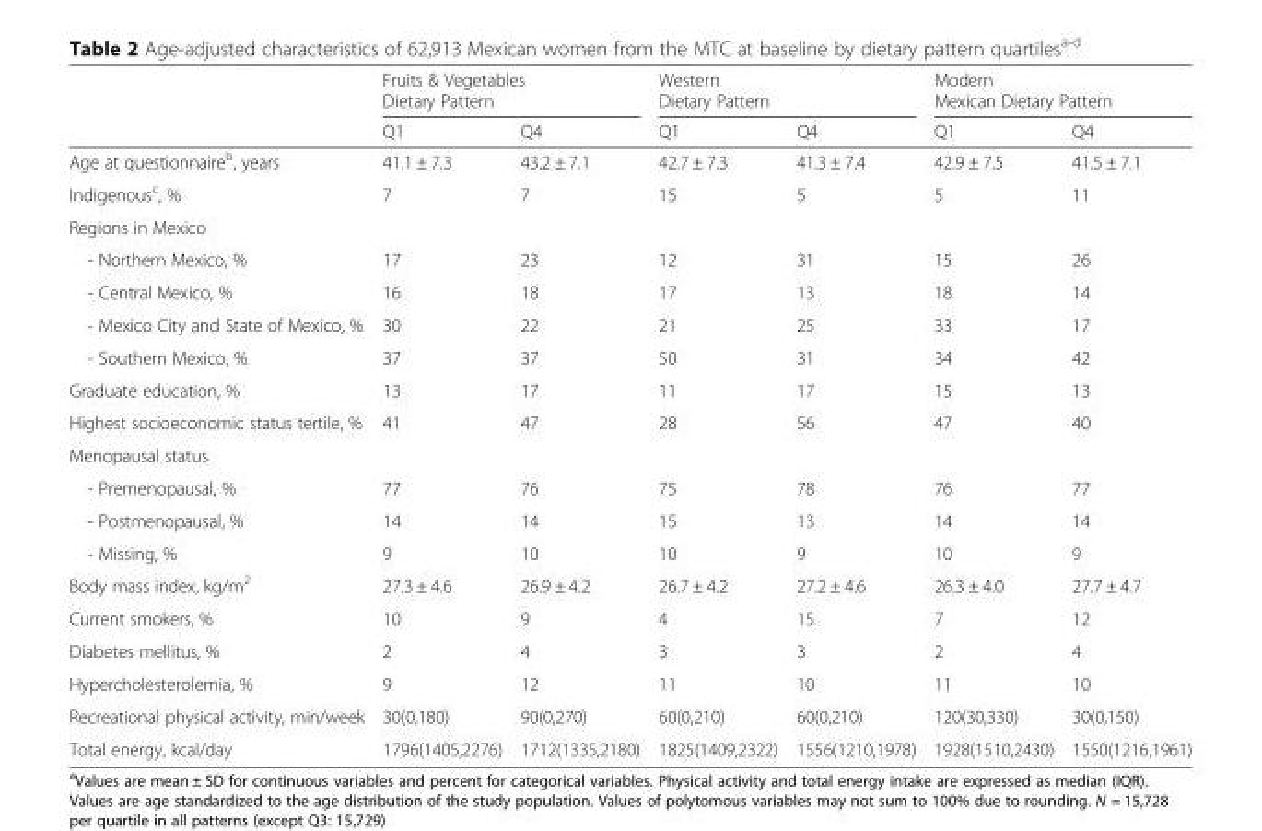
<table><thead><tr><td rowspan="2"></td><td colspan="2">Fruits &amp; Vegetables Dietary Pattern</td><td colspan="2">Western Dietary Pattern</td><td colspan="2">Modern Mexican Dietary Pattern</td></tr><tr><td>Q1</td><td>Q4</td><td>Q1</td><td>Q4</td><td>Q1</td><td>Q4</td></tr></thead><tbody><tr><td>Age at questionnaire<sup>b</sup>, years</td><td>41.1 ± 7.3</td><td>43.2 ± 7.1</td><td>42.7 ± 7.3</td><td>41.3 ± 7.4</td><td>42.9 ± 7.5</td><td>41.5 ± 7.1</td></tr><tr><td>Indigenous<sup>c</sup>, %</td><td>7</td><td>7</td><td>15</td><td>5</td><td>5</td><td>11</td></tr><tr><td colspan="7">Regions in Mexico</td></tr><tr><td>- Northern Mexico, %</td><td>17</td><td>23</td><td>12</td><td>31</td><td>15</td><td>26</td></tr><tr><td>- Central Mexico, %</td><td>16</td><td>18</td><td>17</td><td>13</td><td>18</td><td>14</td></tr><tr><td>- Mexico City and State of Mexico, %</td><td>30</td><td>22</td><td>21</td><td>25</td><td>33</td><td>17</td></tr><tr><td>- Southern Mexico, %</td><td>37</td><td>37</td><td>50</td><td>31</td><td>34</td><td>42</td></tr><tr><td>Graduate education, %</td><td>13</td><td>17</td><td>11</td><td>17</td><td>15</td><td>13</td></tr><tr><td>Highest socioeconomic status tertile, %</td><td>41</td><td>47</td><td>28</td><td>56</td><td>47</td><td>40</td></tr><tr><td colspan="7">Menopausal status</td></tr><tr><td>- Premenopausal, %</td><td>77</td><td>76</td><td>75</td><td>78</td><td>76</td><td>77</td></tr><tr><td>- Postmenopausal, %</td><td>14</td><td>14</td><td>15</td><td>13</td><td>14</td><td>14</td></tr><tr><td>- Missing, %</td><td>9</td><td>10</td><td>10</td><td>9</td><td>10</td><td>9</td></tr><tr><td>Body mass index, kg/m<sup>2</sup></td><td>27.3 ± 4.6</td><td>26.9 ± 4.2</td><td>26.7 ± 4.2</td><td>27.2 ± 4.6</td><td>26.3 ± 4.0</td><td>27.7 ± 4.7</td></tr><tr><td>Current smokers, %</td><td>10</td><td>9</td><td>4</td><td>15</td><td>7</td><td>12</td></tr><tr><td>Diabetes mellitus, %</td><td>2</td><td>4</td><td>3</td><td>3</td><td>2</td><td>4</td></tr><tr><td>Hypercholesterolemia, %</td><td>9</td><td>12</td><td>11</td><td>10</td><td>11</td><td>10</td></tr><tr><td>Recreational physical activity, min/week</td><td>30(0,180)</td><td>90(0,270)</td><td>60(0,210)</td><td>60(0,210)</td><td>120(30,330)</td><td>30(0,150)</td></tr><tr><td>Total energy, kcal/day</td><td>1796(1405,2276)</td><td>1712(1335,2180)</td><td>1825(1409,2322)</td><td>1556(1210,1978)</td><td>1928(1510,2430)</td><td>1550(1216,1961)</td></tr></tbody></table>